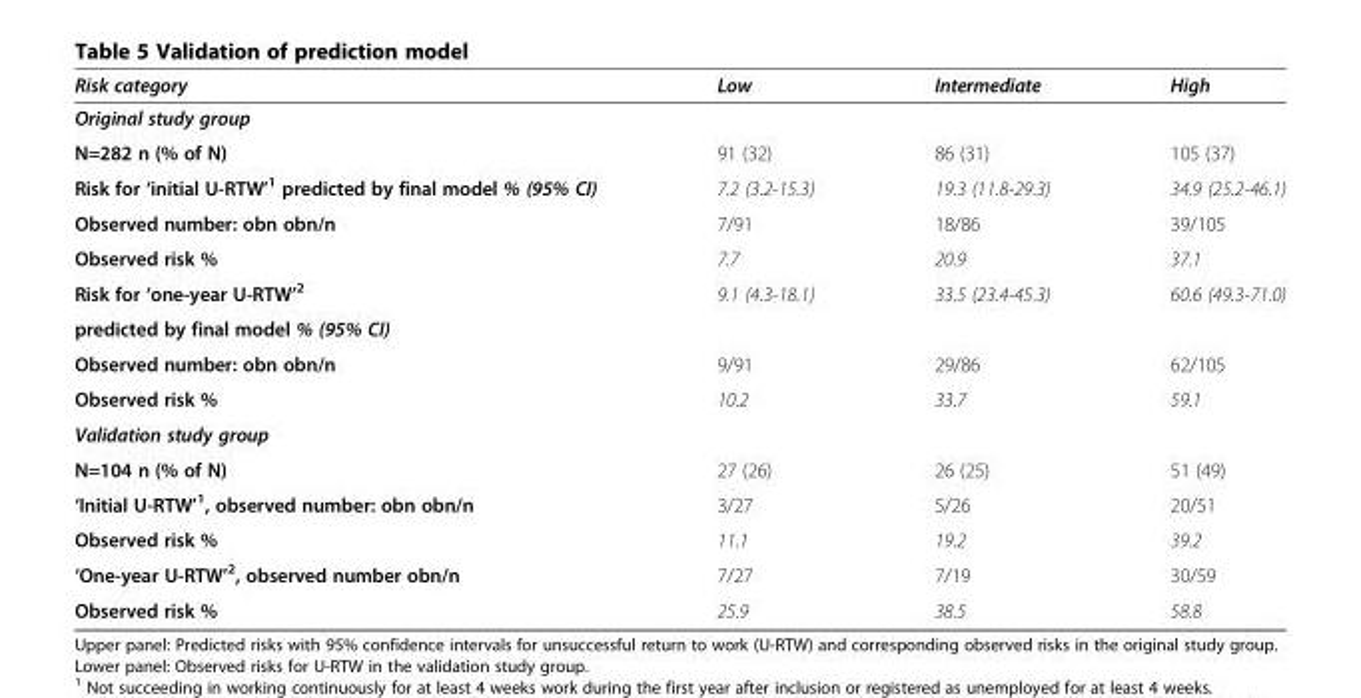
<table><thead><tr><td>Risk category</td><td>Low</td><td>Intermediate</td><td>High</td></tr></thead><tbody><tr><td colspan="4">Original study group</td></tr><tr><td>N=282 n (% of N)</td><td>91 (32)</td><td>86 (31)</td><td>105 (37)</td></tr><tr><td>Risk for ‘initial U-RTW’<sup>1</sup> predicted by final model % (95% CI)</td><td>7.2 (3.2-15.3)</td><td>19.3 (11.8-29.3)</td><td>34.9 (25.2-46.1)</td></tr><tr><td>Observed number: obn obn/n</td><td>7/91</td><td>18/86</td><td>39/105</td></tr><tr><td>Observed risk %</td><td>7.7</td><td>20.9</td><td>37.1</td></tr><tr><td>Risk for ‘one-year U-RTW’<sup>2</sup></td><td rowspan="2">9.1 (4.3-18.1)</td><td rowspan="2">33.5 (23.4-45.3)</td><td rowspan="2">60.6 (49.3-71.0)</td></tr><tr><td>predicted by final model % (95% CI)</td></tr><tr><td>Observed number: obn obn/n</td><td>9/91</td><td>29/86</td><td>62/105</td></tr><tr><td>Observed risk %</td><td>10.2</td><td>33.7</td><td>59.1</td></tr><tr><td colspan="4">Validation study group</td></tr><tr><td>N=104 n (% of N)</td><td>27 (26)</td><td>26 (25)</td><td>51 (49)</td></tr><tr><td>‘Initial U-RTW’<sup>1</sup>, observed number: obn obn/n</td><td>3/27</td><td>5/26</td><td>20/51</td></tr><tr><td>Observed risk %</td><td>11.1</td><td>19.2</td><td>39.2</td></tr><tr><td>‘One-year U-RTW’<sup>2</sup>, observed number obn/n</td><td>7/27</td><td>7/19</td><td>30/59</td></tr><tr><td>Observed risk %</td><td>25.9</td><td>38.5</td><td>58.8</td></tr></tbody></table>